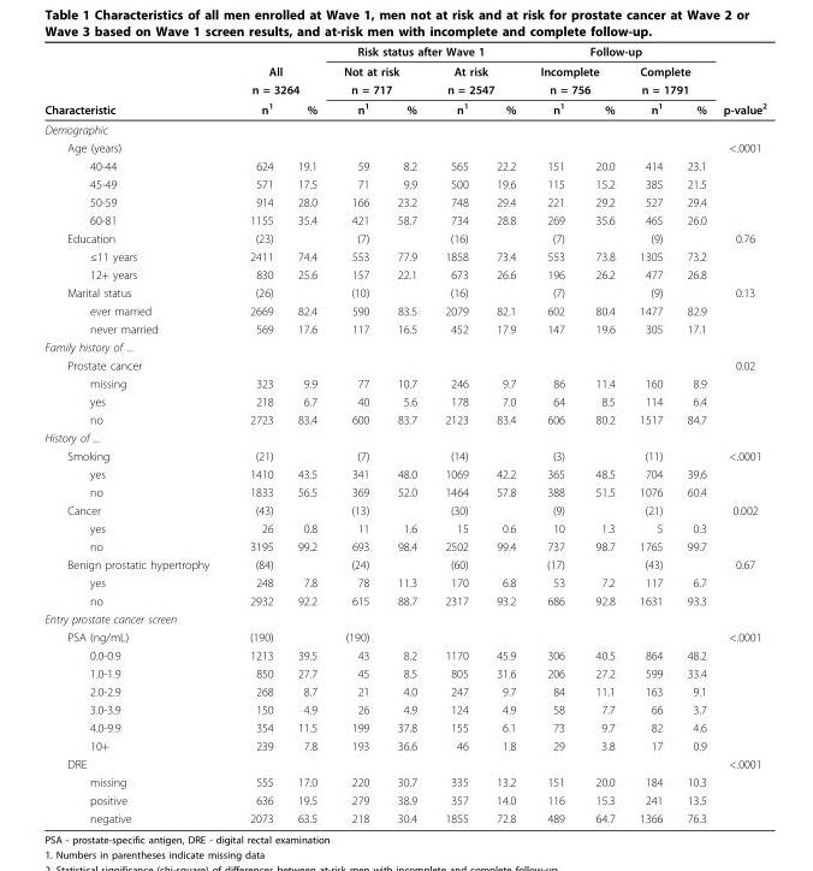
<table><thead><tr><td rowspan="4">Characteristic</td><td></td><td></td><td colspan="4">Risk status after Wave 1</td><td colspan="4">Follow-up</td><td rowspan="4">p-value<sup>2</sup></td></tr><tr><td rowspan="2" colspan="2">All n = 3264</td><td rowspan="2" colspan="2">Not at risk n = 717</td><td rowspan="2" colspan="2">At risk n = 2547</td><td rowspan="2" colspan="2">Incomplete n = 756</td><td rowspan="2" colspan="2">Complete n = 1791</td></tr><tr></tr><tr><td>n<sup>1</sup></td><td>%</td><td>n<sup>1</sup></td><td>%</td><td>n<sup>1</sup></td><td>%</td><td>n<sup>1</sup></td><td>%</td><td>n<sup>1</sup></td><td>%</td></tr></thead><tbody><tr><td colspan="12">Demographic</td></tr><tr><td>Age (years)</td><td></td><td></td><td></td><td></td><td></td><td></td><td></td><td></td><td></td><td></td><td>&lt;.0001</td></tr><tr><td>40-44</td><td>624</td><td>19.1</td><td>59</td><td>8.2</td><td>565</td><td>22.2</td><td>151</td><td>20.0</td><td>414</td><td>23.1</td><td></td></tr><tr><td>45-49</td><td>571</td><td>17.5</td><td>71</td><td>9.9</td><td>500</td><td>19.6</td><td>115</td><td>15.2</td><td>385</td><td>21.5</td><td></td></tr><tr><td>50-59</td><td>914</td><td>28.0</td><td>166</td><td>23.2</td><td>748</td><td>29.4</td><td>221</td><td>29.2</td><td>527</td><td>29.4</td><td></td></tr><tr><td>60-81</td><td>1155</td><td>35.4</td><td>421</td><td>58.7</td><td>734</td><td>28.8</td><td>269</td><td>35.6</td><td>465</td><td>26.0</td><td></td></tr><tr><td>Education</td><td>(23)</td><td></td><td>(7)</td><td></td><td>(16)</td><td></td><td>(7)</td><td></td><td>(9)</td><td></td><td>0.76</td></tr><tr><td>≤11 years</td><td>2411</td><td>74.4</td><td>553</td><td>77.9</td><td>1858</td><td>73.4</td><td>553</td><td>73.8</td><td>1305</td><td>73.2</td><td></td></tr><tr><td>12+ years</td><td>830</td><td>25.6</td><td>157</td><td>22.1</td><td>673</td><td>26.6</td><td>196</td><td>26.2</td><td>477</td><td>26.8</td><td></td></tr><tr><td>Marital status</td><td>(26)</td><td></td><td>(10)</td><td></td><td>(16)</td><td></td><td>(7)</td><td></td><td>(9)</td><td></td><td>0.13</td></tr><tr><td>ever married</td><td>2669</td><td>82.4</td><td>590</td><td>83.5</td><td>2079</td><td>82.1</td><td>602</td><td>80.4</td><td>1477</td><td>82.9</td><td></td></tr><tr><td>never married</td><td>569</td><td>17.6</td><td>117</td><td>16.5</td><td>452</td><td>17.9</td><td>147</td><td>19.6</td><td>305</td><td>17.1</td><td></td></tr><tr><td colspan="12">Family history of ...</td></tr><tr><td>Prostate cancer</td><td></td><td></td><td></td><td></td><td></td><td></td><td></td><td></td><td></td><td></td><td>0.02</td></tr><tr><td>missing</td><td>323</td><td>9.9</td><td>77</td><td>10.7</td><td>246</td><td>9.7</td><td>86</td><td>11.4</td><td>160</td><td>8.9</td><td></td></tr><tr><td>yes</td><td>218</td><td>6.7</td><td>40</td><td>5.6</td><td>178</td><td>7.0</td><td>64</td><td>8.5</td><td>114</td><td>6.4</td><td></td></tr><tr><td>no</td><td>2723</td><td>83.4</td><td>600</td><td>83.7</td><td>2123</td><td>83.4</td><td>606</td><td>80.2</td><td>1517</td><td>84.7</td><td></td></tr><tr><td colspan="12">History of ...</td></tr><tr><td>Smoking</td><td>(21)</td><td></td><td>(7)</td><td></td><td>(14)</td><td></td><td>(3)</td><td></td><td>(11)</td><td></td><td>&lt;.0001</td></tr><tr><td>yes</td><td>1410</td><td>43.5</td><td>341</td><td>48.0</td><td>1069</td><td>42.2</td><td>365</td><td>48.5</td><td>704</td><td>39.6</td><td></td></tr><tr><td>no</td><td>1833</td><td>56.5</td><td>369</td><td>52.0</td><td>1464</td><td>57.8</td><td>388</td><td>51.5</td><td>1076</td><td>60.4</td><td></td></tr><tr><td>Cancer</td><td>(43)</td><td></td><td>(13)</td><td></td><td>(30)</td><td></td><td>(9)</td><td></td><td>(21)</td><td></td><td>0.002</td></tr><tr><td>yes</td><td>26</td><td>0.8</td><td>11</td><td>1.6</td><td>15</td><td>0.6</td><td>10</td><td>1.3</td><td>5</td><td>0.3</td><td></td></tr><tr><td>no</td><td>3195</td><td>99.2</td><td>693</td><td>98.4</td><td>2502</td><td>99.4</td><td>737</td><td>98.7</td><td>1765</td><td>99.7</td><td></td></tr><tr><td>Benign prostatic hypertrophy</td><td>(84)</td><td></td><td>(24)</td><td></td><td>(60)</td><td></td><td>(17)</td><td></td><td>(43)</td><td></td><td>0.67</td></tr><tr><td>yes</td><td>248</td><td>7.8</td><td>78</td><td>11.3</td><td>170</td><td>6.8</td><td>53</td><td>7.2</td><td>117</td><td>6.7</td><td></td></tr><tr><td>no</td><td>2932</td><td>92.2</td><td>615</td><td>88.7</td><td>2317</td><td>93.2</td><td>686</td><td>92.8</td><td>1631</td><td>93.3</td><td></td></tr><tr><td colspan="12">Entry prostate cancer screen</td></tr><tr><td>PSA (ng/mL)</td><td>(190)</td><td></td><td>(190)</td><td></td><td></td><td></td><td></td><td></td><td></td><td></td><td>&lt;.0001</td></tr><tr><td>0.0-0.9</td><td>1213</td><td>39.5</td><td>43</td><td>8.2</td><td>1170</td><td>45.9</td><td>306</td><td>40.5</td><td>864</td><td>48.2</td><td></td></tr><tr><td>1.0-1.9</td><td>850</td><td>27.7</td><td>45</td><td>8.5</td><td>805</td><td>31.6</td><td>206</td><td>27.2</td><td>599</td><td>33.4</td><td></td></tr><tr><td>2.0-2.9</td><td>268</td><td>8.7</td><td>21</td><td>4.0</td><td>247</td><td>9.7</td><td>84</td><td>11.1</td><td>163</td><td>9.1</td><td></td></tr><tr><td>3.0-3.9</td><td>150</td><td>4.9</td><td>26</td><td>4.9</td><td>124</td><td>4.9</td><td>58</td><td>7.7</td><td>66</td><td>3.7</td><td></td></tr><tr><td>4.0-9.9</td><td>354</td><td>11.5</td><td>199</td><td>37.8</td><td>155</td><td>6.1</td><td>73</td><td>9.7</td><td>82</td><td>4.6</td><td></td></tr><tr><td>10+</td><td>239</td><td>7.8</td><td>193</td><td>36.6</td><td>46</td><td>1.8</td><td>29</td><td>3.8</td><td>17</td><td>0.9</td><td></td></tr><tr><td>DRE</td><td></td><td></td><td></td><td></td><td></td><td></td><td></td><td></td><td></td><td></td><td>&lt;.0001</td></tr><tr><td>missing</td><td>555</td><td>17.0</td><td>220</td><td>30.7</td><td>335</td><td>13.2</td><td>151</td><td>20.0</td><td>184</td><td>10.3</td><td></td></tr><tr><td>positive</td><td>636</td><td>19.5</td><td>279</td><td>38.9</td><td>357</td><td>14.0</td><td>116</td><td>15.3</td><td>241</td><td>13.5</td><td></td></tr><tr><td>negative</td><td>2073</td><td>63.5</td><td>218</td><td>30.4</td><td>1855</td><td>72.8</td><td>489</td><td>64.7</td><td>1366</td><td>76.3</td><td></td></tr></tbody></table>